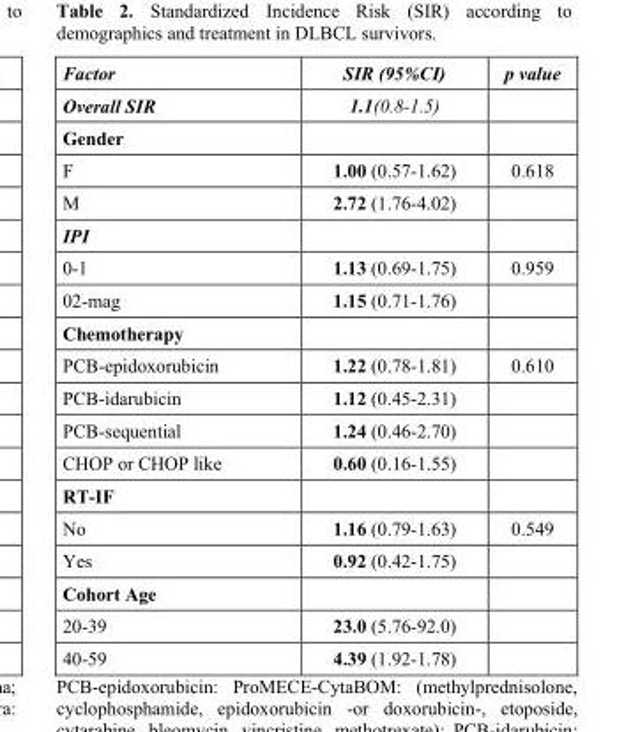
<table><thead><tr><td>Factor</td><td>SIR (95%CI)</td><td>p value</td></tr></thead><tbody><tr><td>Overall SIR</td><td>1.1(0.8-1.5)</td><td></td></tr><tr><td colspan="3">Gender</td></tr><tr><td>F</td><td>1.00 (0.57-1.62)</td><td>0.618</td></tr><tr><td>M</td><td>2.72 (1.76-4.02)</td><td></td></tr><tr><td colspan="3">IPI</td></tr><tr><td>0-1</td><td>1.13 (0.69-1.75)</td><td>0.959</td></tr><tr><td>02-mag</td><td>1.15 (0.71-1.76)</td><td></td></tr><tr><td colspan="3">Chemotherapy</td></tr><tr><td>PCB-epidoxorubicin</td><td>1.22 (0.78-1.81)</td><td>0.610</td></tr><tr><td>PCB-idarubicin</td><td>1.12 (0.45-2.31)</td><td></td></tr><tr><td>PCB-sequential</td><td>1.24 (0.46-2.70)</td><td></td></tr><tr><td>CHOP or CHOP like</td><td>0.60 (0.16-1.55)</td><td></td></tr><tr><td colspan="3">RT-IF</td></tr><tr><td>No</td><td>1.16 (0.79-1.63)</td><td>0.549</td></tr><tr><td>Yes</td><td>0.92 (0.42-1.75)</td><td></td></tr><tr><td colspan="3">Cohort Age</td></tr><tr><td>20-39</td><td>23.0 (5.76-92.0)</td><td></td></tr><tr><td>40-59</td><td>4.39 (1.92-1.78)</td><td></td></tr></tbody></table>